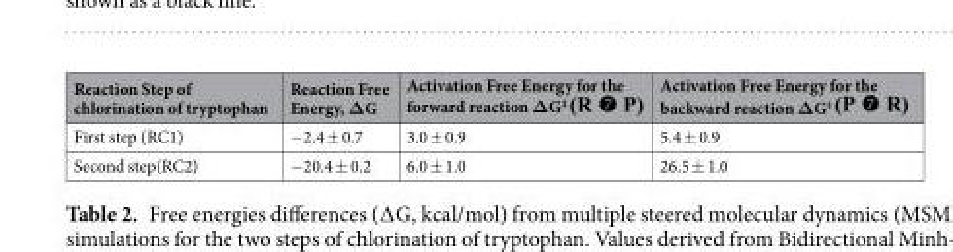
<table><thead><tr><td>Reaction Step of chlorination of tryptophan</td><td>Reaction Free Energy, ΔG</td><td>Activation Free Energy for the forward reaction ΔG<sup>‡</sup></td><td>Activation Free Energy for the backward reaction ΔG<sup>‡</sup></td></tr></thead><tbody><tr><td>First step (RC1)</td><td>−2.4 ± 0.7</td><td>3.0 ± 0.9</td><td>5.4 ± 0.9</td></tr><tr><td>Second step(RC2)</td><td>−20.4 ± 0.2</td><td>6.0 ± 1.0</td><td>26.5 ± 1.0</td></tr></tbody></table>